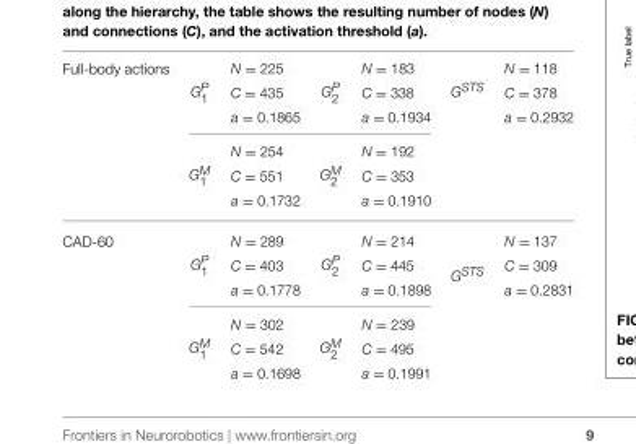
<table><tbody><tr><td rowspan="2">Full-body actions</td><td>G<sup>P</sup> <sub>1</sub></td><td>N = 225 C = 435 a = 0.1865</td><td>G<sup>P</sup> <sub>2</sub></td><td>N = 183 C = 338 a = 0.1934</td><td>G<sup>STS</sup></td><td>N = 118 C = 378 a = 0.2932</td></tr><tr><td>G<sup>M</sup> <sub>1</sub></td><td>N = 254 C = 551 a = 0.1732</td><td>G<sup>M</sup> <sub>2</sub></td><td>N = 192 C = 353 a = 0.1910</td><td></td><td></td></tr><tr><td rowspan="2">CAD-60</td><td>G<sup>P</sup> <sub>1</sub></td><td>N = 289 C = 403 a = 0.1778</td><td>G<sup>P</sup> <sub>2</sub></td><td>N = 214 C = 445 a = 0.1898</td><td>G<sup>STS</sup></td><td>N = 137 C = 309 a = 0.2831</td></tr><tr><td>G<sup>M</sup> <sub>1</sub></td><td>N = 302 C = 542 a = 0.1698</td><td>G<sup>M</sup> <sub>2</sub></td><td>N = 239 C = 495 a = 0.1991</td><td></td><td></td></tr></tbody></table>